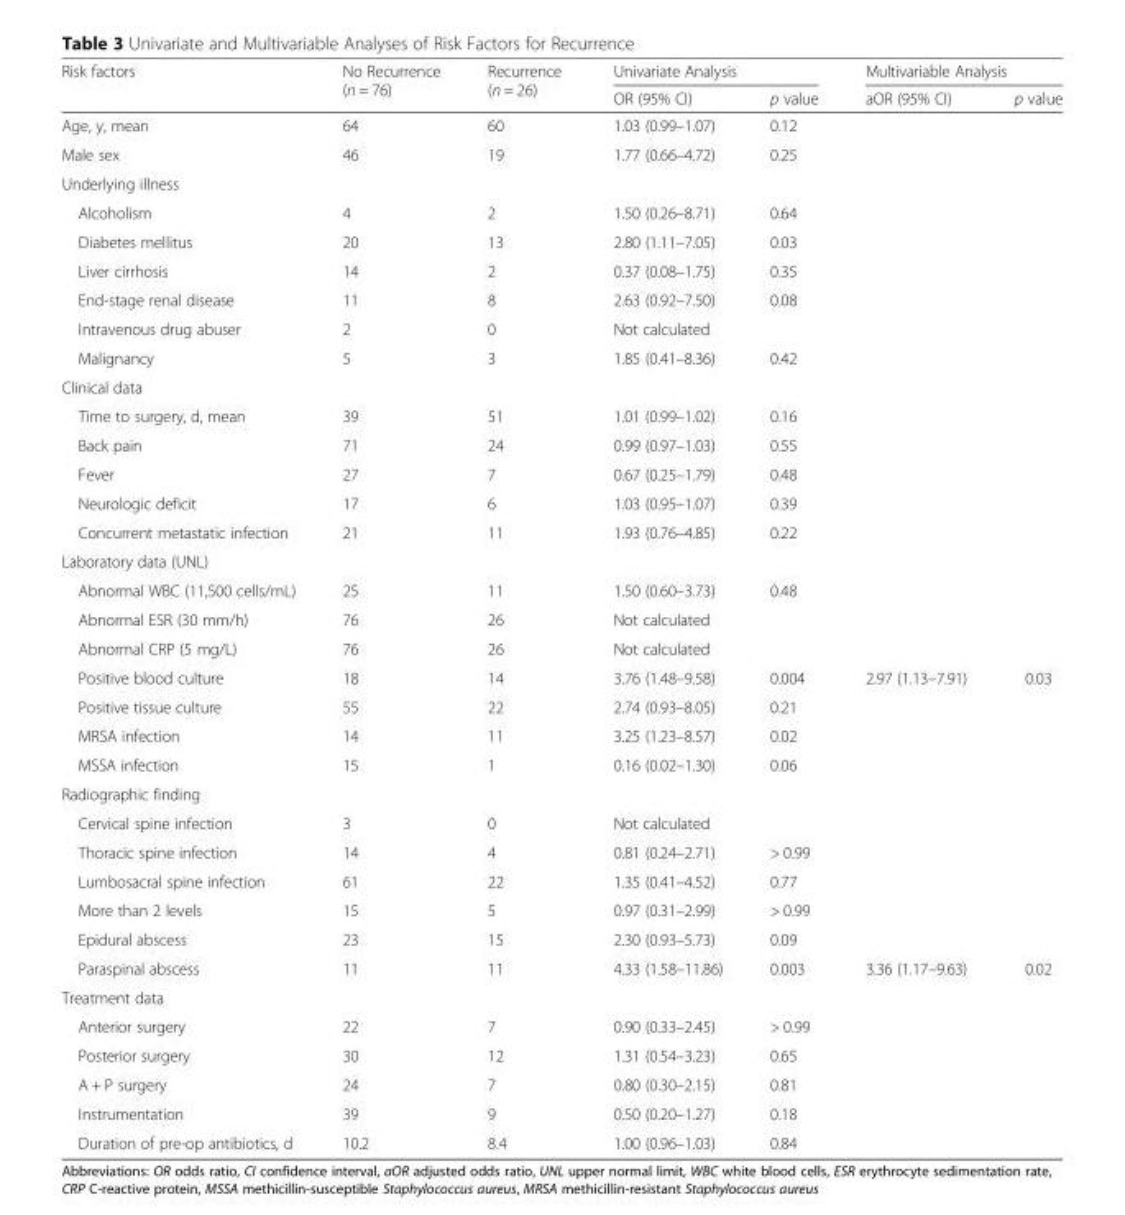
<table><thead><tr><td rowspan="2">Risk factors</td><td rowspan="2">No Recurrence (n = 76)</td><td rowspan="2">Recurrence (n = 26)</td><td colspan="2">Univariate Analysis</td><td colspan="2">Multivariable Analysis</td></tr><tr><td>OR (95% CI)</td><td>p value</td><td>aOR (95% CI)</td><td>p value</td></tr></thead><tbody><tr><td>Age, y, mean</td><td>64</td><td>60</td><td>1.03 (0.99–1.07)</td><td>0.12</td><td></td><td></td></tr><tr><td>Male sex</td><td>46</td><td>19</td><td>1.77 (0.66–4.72)</td><td>0.25</td><td></td><td></td></tr><tr><td colspan="7">Underlying illness</td></tr><tr><td>Alcoholism</td><td>4</td><td>2</td><td>1.50 (0.26–8.71)</td><td>0.64</td><td></td><td></td></tr><tr><td>Diabetes mellitus</td><td>20</td><td>13</td><td>2.80 (1.11–7.05)</td><td>0.03</td><td></td><td></td></tr><tr><td>Liver cirrhosis</td><td>14</td><td>2</td><td>0.37 (0.08–1.75)</td><td>0.35</td><td></td><td></td></tr><tr><td>End-stage renal disease</td><td>11</td><td>8</td><td>2.63 (0.92–7.50)</td><td>0.08</td><td></td><td></td></tr><tr><td>Intravenous drug abuser</td><td>2</td><td>0</td><td>Not calculated</td><td></td><td></td><td></td></tr><tr><td>Malignancy</td><td>5</td><td>3</td><td>1.85 (0.41–8.36)</td><td>0.42</td><td></td><td></td></tr><tr><td colspan="7">Clinical data</td></tr><tr><td>Time to surgery, d, mean</td><td>39</td><td>51</td><td>1.01 (0.99–1.02)</td><td>0.16</td><td></td><td></td></tr><tr><td>Back pain</td><td>71</td><td>24</td><td>0.99 (0.97–1.03)</td><td>0.55</td><td></td><td></td></tr><tr><td>Fever</td><td>27</td><td>7</td><td>0.67 (0.25–1.79)</td><td>0.48</td><td></td><td></td></tr><tr><td>Neurologic deficit</td><td>17</td><td>6</td><td>1.03 (0.95–1.07)</td><td>0.39</td><td></td><td></td></tr><tr><td>Concurrent metastatic infection</td><td>21</td><td>11</td><td>1.93 (0.76–4.85)</td><td>0.22</td><td></td><td></td></tr><tr><td colspan="7">Laboratory data (UNL)</td></tr><tr><td>Abnormal WBC (11,500 cells/mL)</td><td>25</td><td>11</td><td>1.50 (0.60–3.73)</td><td>0.48</td><td></td><td></td></tr><tr><td>Abnormal ESR (30 mm/h)</td><td>76</td><td>26</td><td>Not calculated</td><td></td><td></td><td></td></tr><tr><td>Abnormal CRP (5 mg/L)</td><td>76</td><td>26</td><td>Not calculated</td><td></td><td></td><td></td></tr><tr><td>Positive blood culture</td><td>18</td><td>14</td><td>3.76 (1.48–9.58)</td><td>0.004</td><td>2.97 (1.13–7.91)</td><td>0.03</td></tr><tr><td>Positive tissue culture</td><td>55</td><td>22</td><td>2.74 (0.93–8.05)</td><td>0.21</td><td></td><td></td></tr><tr><td>MRSA infection</td><td>14</td><td>11</td><td>3.25 (1.23–8.57)</td><td>0.02</td><td></td><td></td></tr><tr><td>MSSA infection</td><td>15</td><td>1</td><td>0.16 (0.02–1.30)</td><td>0.06</td><td></td><td></td></tr><tr><td colspan="7">Radiographic finding</td></tr><tr><td>Cervical spine infection</td><td>3</td><td>0</td><td>Not calculated</td><td></td><td></td><td></td></tr><tr><td>Thoracic spine infection</td><td>14</td><td>4</td><td>0.81 (0.24–2.71)</td><td>&gt; 0.99</td><td></td><td></td></tr><tr><td>Lumbosacral spine infection</td><td>61</td><td>22</td><td>1.35 (0.41–4.52)</td><td>0.77</td><td></td><td></td></tr><tr><td>More than 2 levels</td><td>15</td><td>5</td><td>0.97 (0.31–2.99)</td><td>&gt; 0.99</td><td></td><td></td></tr><tr><td>Epidural abscess</td><td>23</td><td>15</td><td>2.30 (0.93–5.73)</td><td>0.09</td><td></td><td></td></tr><tr><td>Paraspinal abscess</td><td>11</td><td>11</td><td>4.33 (1.58–11.86)</td><td>0.003</td><td>3.36 (1.17–9.63)</td><td>0.02</td></tr><tr><td colspan="7">Treatment data</td></tr><tr><td>Anterior surgery</td><td>22</td><td>7</td><td>0.90 (0.33–2.45)</td><td>&gt; 0.99</td><td></td><td></td></tr><tr><td>Posterior surgery</td><td>30</td><td>12</td><td>1.31 (0.54–3.23)</td><td>0.65</td><td></td><td></td></tr><tr><td>A + P surgery</td><td>24</td><td>7</td><td>0.80 (0.30–2.15)</td><td>0.81</td><td></td><td></td></tr><tr><td>Instrumentation</td><td>39</td><td>9</td><td>0.50 (0.20–1.27)</td><td>0.18</td><td></td><td></td></tr><tr><td>Duration of pre-op antibiotics, d</td><td>10.2</td><td>8.4</td><td>1.00 (0.96–1.03)</td><td>0.84</td><td></td><td></td></tr></tbody></table>